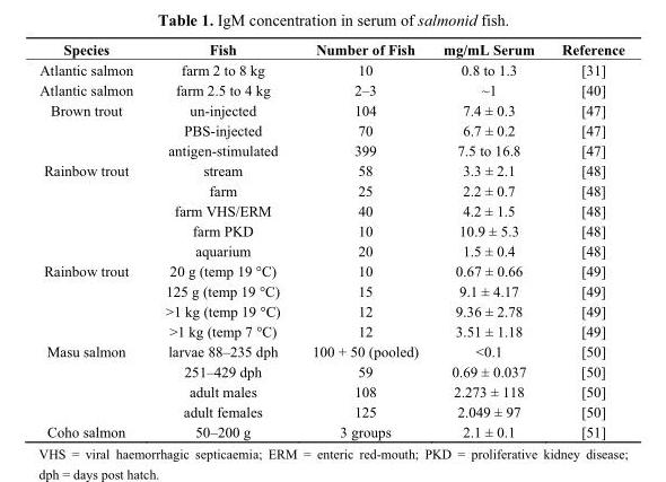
<table><thead><tr><td>Species</td><td>Fish</td><td>Number of Fish</td><td>mg/mL Serum</td><td>Reference</td></tr></thead><tbody><tr><td>Atlantic salmon</td><td>farm 2 to 8 kg</td><td>10</td><td>0.8 to 1.3</td><td>[31]</td></tr><tr><td>Atlantic salmon</td><td>farm 2.5 to 4 kg</td><td>2–3</td><td>~1</td><td>[40]</td></tr><tr><td rowspan="3">Brown trout</td><td>un-injected</td><td>104</td><td>7.4 ± 0.3</td><td>[47]</td></tr><tr><td>PBS-injected</td><td>70</td><td>6.7 ± 0.2</td><td>[47]</td></tr><tr><td>antigen-stimulated</td><td>399</td><td>7.5 to 16.8</td><td>[47]</td></tr><tr><td rowspan="5">Rainbow trout</td><td>stream</td><td>58</td><td>3.3 ± 2.1</td><td>[48]</td></tr><tr><td>farm</td><td>25</td><td>2.2 ± 0.7</td><td>[48]</td></tr><tr><td>farm VHS/ERM</td><td>40</td><td>4.2 ± 1.5</td><td>[48]</td></tr><tr><td>farm PKD</td><td>10</td><td>10.9 ± 5.3</td><td>[48]</td></tr><tr><td>aquarium</td><td>20</td><td>1.5 ± 0.4</td><td>[48]</td></tr><tr><td rowspan="4">Rainbow trout</td><td>20 g (temp 19 °C)</td><td>10</td><td>0.67 ± 0.66</td><td>[49]</td></tr><tr><td>125 g (temp 19 °C)</td><td>15</td><td>9.1 ± 4.17</td><td>[49]</td></tr><tr><td>&gt;1 kg (temp 19 °C)</td><td>12</td><td>9.36 ± 2.78</td><td>[49]</td></tr><tr><td>&gt;1 kg (temp 7 °C)</td><td>12</td><td>3.51 ± 1.18</td><td>[49]</td></tr><tr><td rowspan="4">Masu salmon</td><td>larvae 88–235 dph</td><td>100 + 50 (pooled)</td><td>&lt;0.1</td><td>[50]</td></tr><tr><td>251–429 dph</td><td>59</td><td>0.69 ± 0.037</td><td>[50]</td></tr><tr><td>adult males</td><td>108</td><td>2.273 ± 118</td><td>[50]</td></tr><tr><td>adult females</td><td>125</td><td>2.049 ± 97</td><td>[50]</td></tr><tr><td>Coho salmon</td><td>50–200 g</td><td>3 groups</td><td>2.1 ± 0.1</td><td>[51]</td></tr></tbody></table>